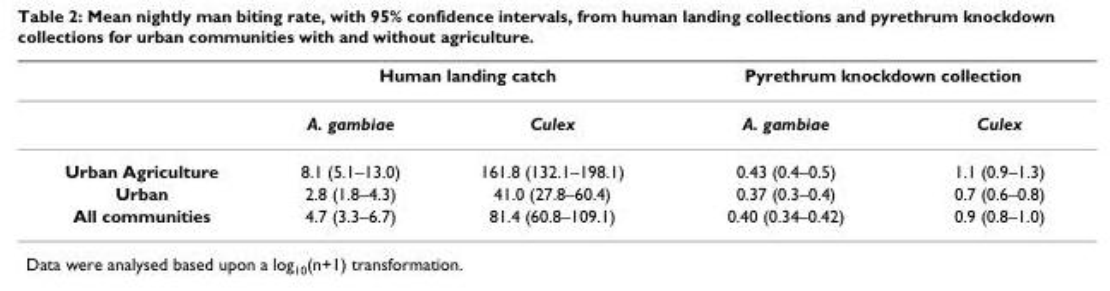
<table><thead><tr><td rowspan="2"></td><td colspan="2">Human landing catch</td><td colspan="2">Pyrethrum knockdown collection</td></tr><tr><td>A. gambiae</td><td>Culex</td><td>A. gambiae</td><td>Culex</td></tr></thead><tbody><tr><td>Urban Agriculture</td><td>8.1 (5.1–13.0)</td><td>161.8 (132.1–198.1)</td><td>0.43 (0.4–0.5)</td><td>1.1 (0.9–1.3)</td></tr><tr><td>Urban</td><td>2.8 (1.8–4.3)</td><td>41.0 (27.8–60.4)</td><td>0.37 (0.3–0.4)</td><td>0.7 (0.6–0.8)</td></tr><tr><td>All communities</td><td>4.7 (3.3–6.7)</td><td>81.4 (60.8–109.1)</td><td>0.40 (0.34–0.42)</td><td>0.9 (0.8–1.0)</td></tr></tbody></table>